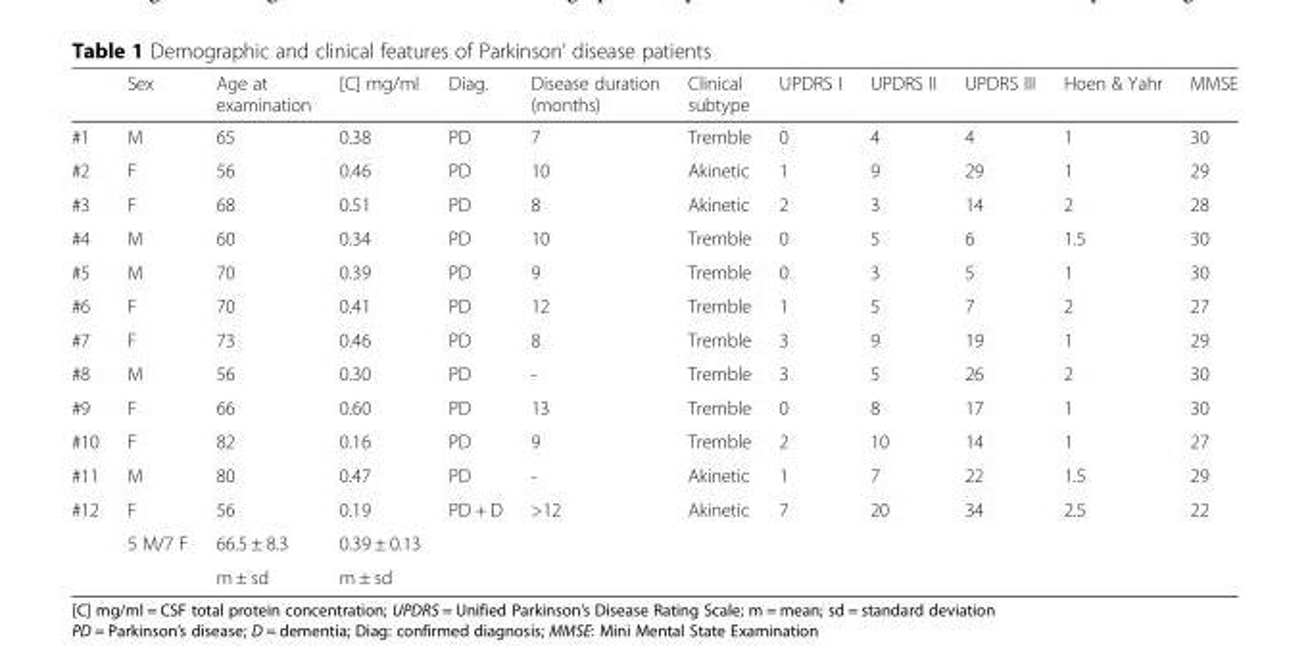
<table><thead><tr><td></td><td>Sex</td><td>Age at examination</td><td>[C] mg/ml</td><td>Diag.</td><td>Disease duration (months)</td><td>Clinical subtype</td><td>UPDRS I</td><td>UPDRS II</td><td>UPDRS III</td><td>Hoen &amp; Yahr</td><td>MMSE</td></tr></thead><tbody><tr><td>#1</td><td>M</td><td>65</td><td>0.38</td><td>PD</td><td>7</td><td>Tremble</td><td>0</td><td>4</td><td>4</td><td>1</td><td>30</td></tr><tr><td>#2</td><td>F</td><td>56</td><td>0.46</td><td>PD</td><td>10</td><td>Akinetic</td><td>1</td><td>9</td><td>29</td><td>1</td><td>29</td></tr><tr><td>#3</td><td>F</td><td>68</td><td>0.51</td><td>PD</td><td>8</td><td>Akinetic</td><td>2</td><td>3</td><td>14</td><td>2</td><td>28</td></tr><tr><td>#4</td><td>M</td><td>60</td><td>0.34</td><td>PD</td><td>10</td><td>Tremble</td><td>0</td><td>5</td><td>6</td><td>1.5</td><td>30</td></tr><tr><td>#5</td><td>M</td><td>70</td><td>0.39</td><td>PD</td><td>9</td><td>Tremble</td><td>0</td><td>3</td><td>5</td><td>1</td><td>30</td></tr><tr><td>#6</td><td>F</td><td>70</td><td>0.41</td><td>PD</td><td>12</td><td>Tremble</td><td>1</td><td>5</td><td>7</td><td>2</td><td>27</td></tr><tr><td>#7</td><td>F</td><td>73</td><td>0.46</td><td>PD</td><td>8</td><td>Tremble</td><td>3</td><td>9</td><td>19</td><td>1</td><td>29</td></tr><tr><td>#8</td><td>M</td><td>56</td><td>0.30</td><td>PD</td><td>-</td><td>Tremble</td><td>3</td><td>5</td><td>26</td><td>2</td><td>30</td></tr><tr><td>#9</td><td>F</td><td>66</td><td>0.60</td><td>PD</td><td>13</td><td>Tremble</td><td>0</td><td>8</td><td>17</td><td>1</td><td>30</td></tr><tr><td>#10</td><td>F</td><td>82</td><td>0.16</td><td>PD</td><td>9</td><td>Tremble</td><td>2</td><td>10</td><td>14</td><td>1</td><td>27</td></tr><tr><td>#11</td><td>M</td><td>80</td><td>0.47</td><td>PD</td><td>-</td><td>Akinetic</td><td>1</td><td>7</td><td>22</td><td>1.5</td><td>29</td></tr><tr><td rowspan="3">#12</td><td>F</td><td>56</td><td>0.19</td><td>PD + D</td><td>&gt;12</td><td>Akinetic</td><td>7</td><td>20</td><td>34</td><td>2.5</td><td>22</td></tr><tr><td>5 M/7 F</td><td>66.5 ± 8.3</td><td>0.39 ± 0.13</td><td></td><td></td><td></td><td></td><td></td><td></td><td></td><td></td></tr><tr><td></td><td>m ± sd</td><td>m ± sd</td><td></td><td></td><td></td><td></td><td></td><td></td><td></td><td></td></tr></tbody></table>